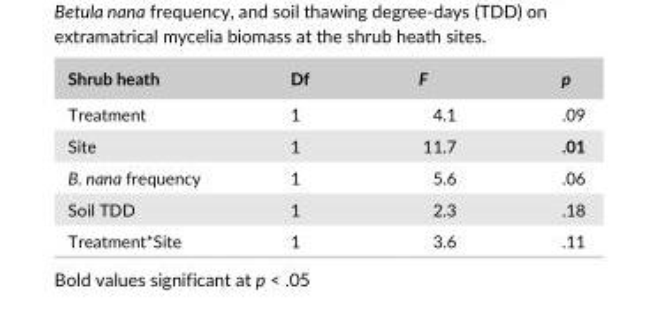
<table><thead><tr><td>Shrub heath</td><td>Df</td><td>F</td><td>p</td></tr></thead><tbody><tr><td>Treatment</td><td>1</td><td>4.1</td><td>.09</td></tr><tr><td>Site</td><td>1</td><td>11.7</td><td>.01</td></tr><tr><td>B. nana frequency</td><td>1</td><td>5.6</td><td>.06</td></tr><tr><td>Soil TDD</td><td>1</td><td>2.3</td><td>.18</td></tr><tr><td>Treatment*Site</td><td>1</td><td>3.6</td><td>.11</td></tr></tbody></table>